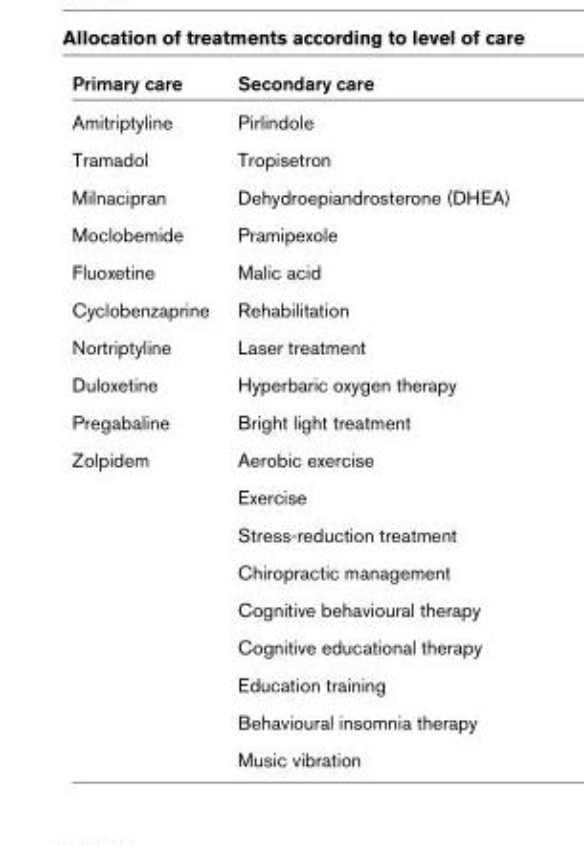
<table><thead><tr><td>Primary care</td><td>Secondary care</td></tr></thead><tbody><tr><td>Amitriptyline</td><td>Pirlindole</td></tr><tr><td>Tramadol</td><td>Tropisetron</td></tr><tr><td>Milnacipran</td><td>Dehydroepiandrosterone (DHEA)</td></tr><tr><td>Moclobemide</td><td>Pramipexole</td></tr><tr><td>Fluoxetine</td><td>Malic acid</td></tr><tr><td>Cyclobenzaprine</td><td>Rehabilitation</td></tr><tr><td>Nortriptyline</td><td>Laser treatment</td></tr><tr><td>Duloxetine</td><td>Hyperbaric oxygen therapy</td></tr><tr><td>Pregabaline</td><td>Bright light treatment</td></tr><tr><td rowspan="9">Zolpidem</td><td>Aerobic exercise</td></tr><tr><td>Exercise</td></tr><tr><td>Stress-reduction treatment</td></tr><tr><td>Chiropractic management</td></tr><tr><td>Cognitive behavioural therapy</td></tr><tr><td>Cognitive educational therapy</td></tr><tr><td>Education training</td></tr><tr><td>Behavioural insomnia therapy</td></tr><tr><td>Music vibration</td></tr></tbody></table>